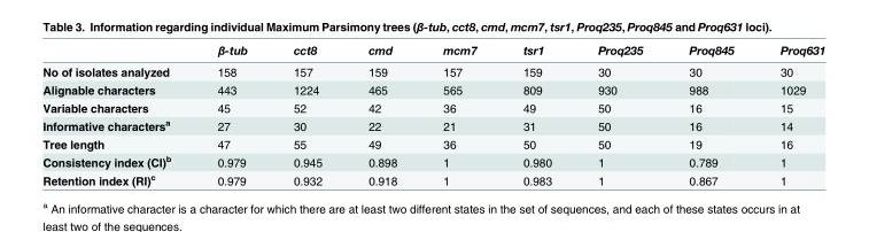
<table><thead><tr><td></td><td>β-tub</td><td>cct8</td><td>cmd</td><td>mcm7</td><td>tsr1</td><td>Proq235</td><td>Proq845</td><td>Proq631</td></tr></thead><tbody><tr><td>No of isolates analyzed</td><td>158</td><td>157</td><td>159</td><td>157</td><td>159</td><td>30</td><td>30</td><td>30</td></tr><tr><td>Alignable characters</td><td>443</td><td>1224</td><td>465</td><td>565</td><td>809</td><td>930</td><td>988</td><td>1029</td></tr><tr><td>Variable characters</td><td>45</td><td>52</td><td>42</td><td>36</td><td>49</td><td>50</td><td>16</td><td>15</td></tr><tr><td>Informative characters<sup>a</sup></td><td>27</td><td>30</td><td>22</td><td>21</td><td>31</td><td>50</td><td>16</td><td>14</td></tr><tr><td>Tree length</td><td>47</td><td>55</td><td>49</td><td>36</td><td>50</td><td>50</td><td>19</td><td>16</td></tr><tr><td>Consistency index (CI)<sup>b</sup></td><td>0.979</td><td>0.945</td><td>0.898</td><td>1</td><td>0.980</td><td>1</td><td>0.789</td><td>1</td></tr><tr><td>Retention index (RI)<sup>c</sup></td><td>0.979</td><td>0.932</td><td>0.918</td><td>1</td><td>0.983</td><td>1</td><td>0.867</td><td>1</td></tr></tbody></table>